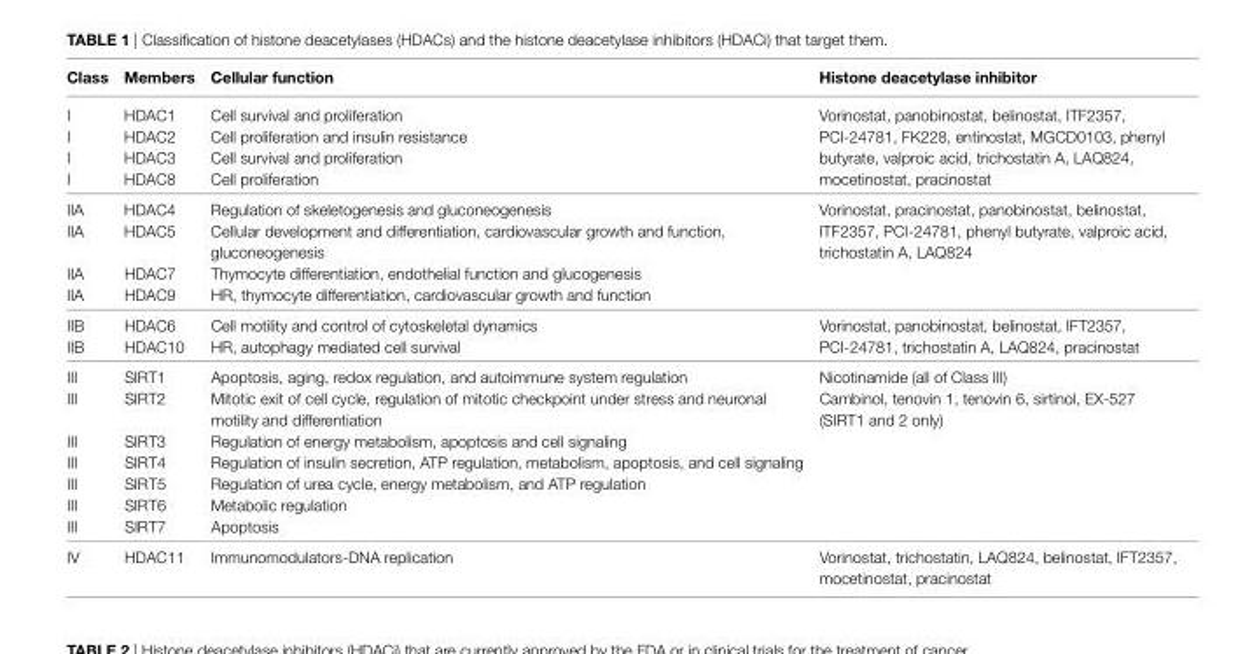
<table><thead><tr><td>Class</td><td>Members</td><td>Cellular function</td><td>Histone deacetylase inhibitor</td></tr></thead><tbody><tr><td>I</td><td>HDAC1</td><td>Cell survival and proliferation</td><td rowspan="4">Vorinostat, panobinostat, belinostat, ITF2357, PCI-24781, FK228, entinostat, MGCD0103, phenyl butyrate, valproic acid, trichostatin A, LAQ824, mocetinostat, pracinostat</td></tr><tr><td>I</td><td>HDAC2</td><td>Cell proliferation and insulin resistance</td></tr><tr><td>I</td><td>HDAC3</td><td>Cell survival and proliferation</td></tr><tr><td>I</td><td>HDAC8</td><td>Cell proliferation</td></tr><tr><td>IIA</td><td>HDAC4</td><td>Regulation of skeletogenesis and gluconeogenesis</td><td rowspan="4">Vorinostat, pracinostat, panobinostat, belinostat, ITF2357, PCI-24781, phenyl butyrate, valproic acid, trichostatin A, LAQ824</td></tr><tr><td>IIA</td><td>HDAC5</td><td>Cellular development and differentiation, cardiovascular growth and function, gluconeogenesis</td></tr><tr><td>IIA</td><td>HDAC7</td><td>Thymocyte differentiation, endothelial function and glucogenesis</td></tr><tr><td>IIA</td><td>HDAC9</td><td>HR, thymocyte differentiation, cardiovascular growth and function</td></tr><tr><td>IIB</td><td>HDAC6</td><td>Cell motility and control of cytoskeletal dynamics</td><td rowspan="2">Vorinostat, panobinostat, belinostat, IFT2357, PCI-24781, trichostatin A, LAQ824, pracinostat</td></tr><tr><td>IIB</td><td>HDAC10</td><td>HR, autophagy mediated cell survival</td></tr><tr><td>III</td><td>SIRT1</td><td>Apoptosis, aging, redox regulation, and autoimmune system regulation</td><td rowspan="7">Nicotinamide (all of Class III) Cambinol, tenovin 1, tenovin 6, sirtinol, EX-527 (SIRT1 and 2 only)</td></tr><tr><td>III</td><td>SIRT2</td><td>Mitotic exit of cell cycle, regulation of mitotic checkpoint under stress and neuronal motility and differentiation</td></tr><tr><td>III</td><td>SIRT3</td><td>Regulation of energy metabolism, apoptosis and cell signaling</td></tr><tr><td>III</td><td>SIRT4</td><td>Regulation of insulin secretion, ATP regulation, metabolism, apoptosis, and cell signaling</td></tr><tr><td>III</td><td>SIRT5</td><td>Regulation of urea cycle, energy metabolism, and ATP regulation</td></tr><tr><td>III</td><td>SIRT6</td><td>Metabolic regulation</td></tr><tr><td>III</td><td>SIRT7</td><td>Apoptosis</td></tr><tr><td>IV</td><td>HDAC11</td><td>Immunomodulators-DNA replication</td><td>Vorinostat, trichostatin, LAQ824, belinostat, IFT2357, mocetinostat, pracinostat</td></tr></tbody></table>